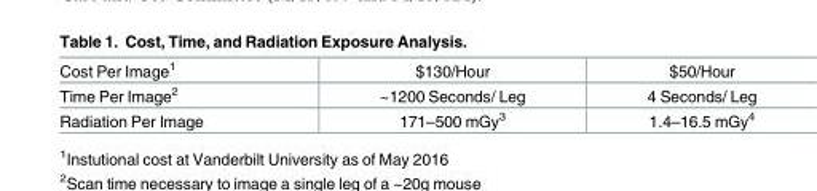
<table><tbody><tr><td>Cost Per Image<sup>1</sup></td><td>$130/Hour</td><td>$50/Hour</td></tr><tr><td>Time Per Image<sup>2</sup></td><td>~1200 Seconds/ Leg</td><td>4 Seconds/ Leg</td></tr><tr><td>Radiation Per Image</td><td>171–500 mGy<sup>3</sup></td><td>1.4–16.5 mGy<sup>4</sup></td></tr></tbody></table>